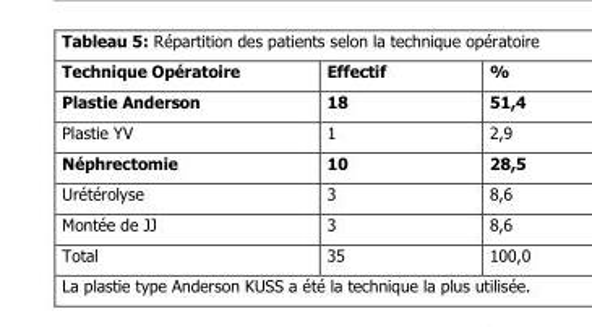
<table><thead><tr><td>Technique Opératoire</td><td>Effectif</td><td>%</td></tr></thead><tbody><tr><td>Plastie Anderson</td><td>18</td><td>51,4</td></tr><tr><td>Plastie YV</td><td>1</td><td>2,9</td></tr><tr><td>Néphrectomie</td><td>10</td><td>28,5</td></tr><tr><td>Urétérolyse</td><td>3</td><td>8,6</td></tr><tr><td>Montée de JJ</td><td>3</td><td>8,6</td></tr><tr><td>Total</td><td>35</td><td>100,0</td></tr></tbody></table>